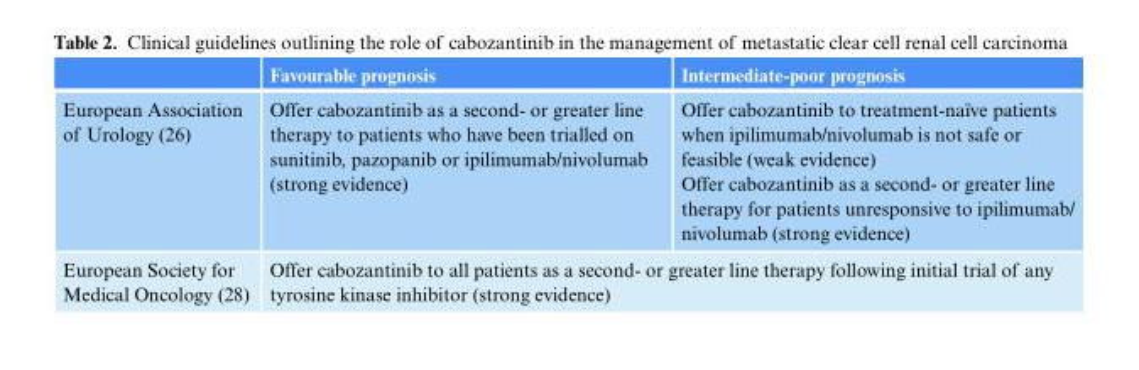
<table><thead><tr><td></td><td>Favourable prognosis</td><td>Intermediate-poor prognosis</td></tr></thead><tbody><tr><td>European Association of Urology (26)</td><td>Offer cabozantinib as a second- or greater line therapy to patients who have been trialled on sunitinib, pazopanib or ipilimumab/nivolumab (strong evidence)</td><td>Offer cabozantinib to treatment-naïve patients when ipilimumab/nivolumab is not safe or feasible (weak evidence) Offer cabozantinib as a second- or greater line therapy for patients unresponsive to ipilimumab/ nivolumab (strong evidence)</td></tr><tr><td>European Society for Medical Oncology (28)</td><td colspan="2">Offer cabozantinib to all patients as a second- or greater line therapy following initial trial of any tyrosine kinase inhibitor (strong evidence)</td></tr></tbody></table>